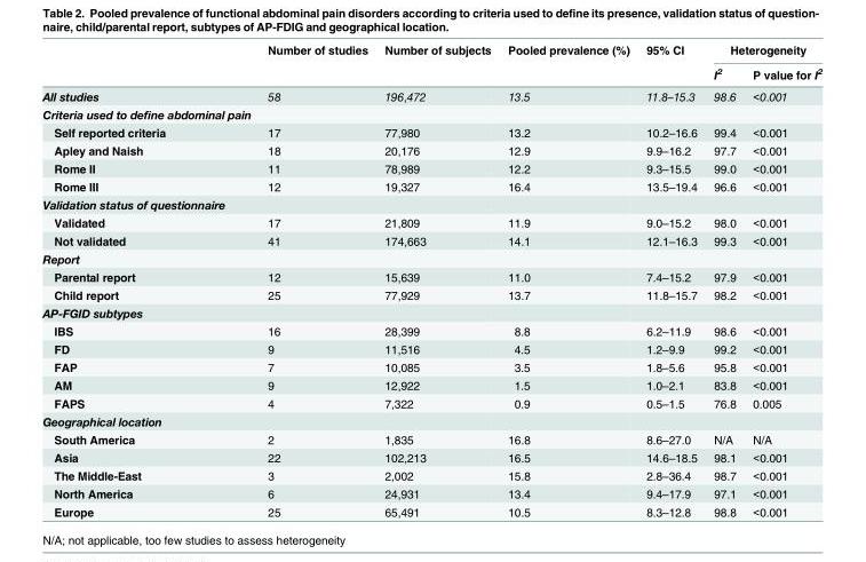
<table><thead><tr><td rowspan="2"></td><td rowspan="2">Number of studies</td><td rowspan="2">Number of subjects</td><td rowspan="2">Pooled prevalence (%)</td><td rowspan="2">95% CI</td><td colspan="2">Heterogeneity</td></tr><tr><td>I<sup>2</sup></td><td>P value for I<sup>2</sup></td></tr></thead><tbody><tr><td>All studies</td><td>58</td><td>196,472</td><td>13.5</td><td>11.8–15.3</td><td>98.6</td><td>&lt;0.001</td></tr><tr><td colspan="7">Criteria used to define abdominal pain</td></tr><tr><td>Self reported criteria</td><td>17</td><td>77,980</td><td>13.2</td><td>10.2–16.6</td><td>99.4</td><td>&lt;0.001</td></tr><tr><td>Apley and Naish</td><td>18</td><td>20,176</td><td>12.9</td><td>9.9–16.2</td><td>97.7</td><td>&lt;0.001</td></tr><tr><td>Rome II</td><td>11</td><td>78,989</td><td>12.2</td><td>9.3–15.5</td><td>99.0</td><td>&lt;0.001</td></tr><tr><td>Rome III</td><td>12</td><td>19,327</td><td>16.4</td><td>13.5–19.4</td><td>96.6</td><td>&lt;0.001</td></tr><tr><td colspan="7">Validation status of questionnaire</td></tr><tr><td>Validated</td><td>17</td><td>21,809</td><td>11.9</td><td>9.0–15.2</td><td>98.0</td><td>&lt;0.001</td></tr><tr><td>Not validated</td><td>41</td><td>174,663</td><td>14.1</td><td>12.1–16.3</td><td>99.3</td><td>&lt;0.001</td></tr><tr><td colspan="7">Report</td></tr><tr><td>Parental report</td><td>12</td><td>15,639</td><td>11.0</td><td>7.4–15.2</td><td>97.9</td><td>&lt;0.001</td></tr><tr><td>Child report</td><td>25</td><td>77,929</td><td>13.7</td><td>11.8–15.7</td><td>98.2</td><td>&lt;0.001</td></tr><tr><td colspan="7">AP-FGID subtypes</td></tr><tr><td>IBS</td><td>16</td><td>28,399</td><td>8.8</td><td>6.2–11.9</td><td>98.6</td><td>&lt;0.001</td></tr><tr><td>FD</td><td>9</td><td>11,516</td><td>4.5</td><td>1.2–9.9</td><td>99.2</td><td>&lt;0.001</td></tr><tr><td>FAP</td><td>7</td><td>10,085</td><td>3.5</td><td>1.8–5.6</td><td>95.8</td><td>&lt;0.001</td></tr><tr><td>AM</td><td>9</td><td>12,922</td><td>1.5</td><td>1.0–2.1</td><td>83.8</td><td>&lt;0.001</td></tr><tr><td>FAPS</td><td>4</td><td>7,322</td><td>0.9</td><td>0.5–1.5</td><td>76.8</td><td>0.005</td></tr><tr><td colspan="7">Geographical location</td></tr><tr><td>South America</td><td>2</td><td>1,835</td><td>16.8</td><td>8.6–27.0</td><td>N/A</td><td>N/A</td></tr><tr><td>Asia</td><td>22</td><td>102,213</td><td>16.5</td><td>14.6–18.5</td><td>98.1</td><td>&lt;0.001</td></tr><tr><td>The Middle-East</td><td>3</td><td>2,002</td><td>15.8</td><td>2.8–36.4</td><td>98.7</td><td>&lt;0.001</td></tr><tr><td>North America</td><td>6</td><td>24,931</td><td>13.4</td><td>9.4–17.9</td><td>97.1</td><td>&lt;0.001</td></tr><tr><td>Europe</td><td>25</td><td>65,491</td><td>10.5</td><td>8.3–12.8</td><td>98.8</td><td>&lt;0.001</td></tr></tbody></table>